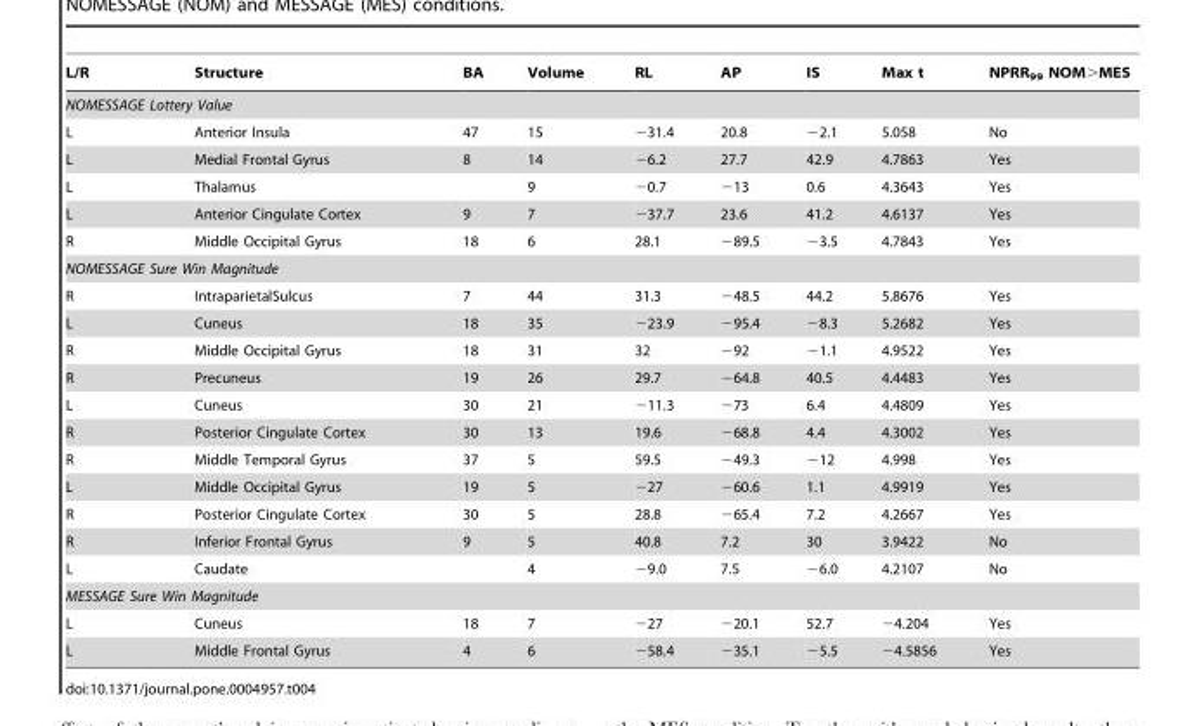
<table><thead><tr><td>L/R</td><td>Structure</td><td>BA</td><td>Volume</td><td>RL</td><td>AP</td><td>IS</td><td>Max t</td><td>NPRR<sub>99</sub> NOM&gt;MES</td></tr></thead><tbody><tr><td colspan="9">NOMESSAGE Lottery Value</td></tr><tr><td>L</td><td>Anterior Insula</td><td>47</td><td>15</td><td>−31.4</td><td>20.8</td><td>−2.1</td><td>5.058</td><td>No</td></tr><tr><td>L</td><td>Medial Frontal Gyrus</td><td>8</td><td>14</td><td>−6.2</td><td>27.7</td><td>42.9</td><td>4.7863</td><td>Yes</td></tr><tr><td>L</td><td>Thalamus</td><td></td><td>9</td><td>−0.7</td><td>−13</td><td>0.6</td><td>4.3643</td><td>Yes</td></tr><tr><td>L</td><td>Anterior Cingulate Cortex</td><td>9</td><td>7</td><td>−37.7</td><td>23.6</td><td>41.2</td><td>4.6137</td><td>Yes</td></tr><tr><td>R</td><td>Middle Occipital Gyrus</td><td>18</td><td>6</td><td>28.1</td><td>−89.5</td><td>−3.5</td><td>4.7843</td><td>Yes</td></tr><tr><td colspan="9">NOMESSAGE Sure Win Magnitude</td></tr><tr><td>R</td><td>IntraparietalSulcus</td><td>7</td><td>44</td><td>31.3</td><td>−48.5</td><td>44.2</td><td>5.8676</td><td>Yes</td></tr><tr><td>L</td><td>Cuneus</td><td>18</td><td>35</td><td>−23.9</td><td>−95.4</td><td>−8.3</td><td>5.2682</td><td>Yes</td></tr><tr><td>R</td><td>Middle Occipital Gyrus</td><td>18</td><td>31</td><td>32</td><td>−92</td><td>−1.1</td><td>4.9522</td><td>Yes</td></tr><tr><td>R</td><td>Precuneus</td><td>19</td><td>26</td><td>29.7</td><td>−64.8</td><td>40.5</td><td>4.4483</td><td>Yes</td></tr><tr><td>L</td><td>Cuneus</td><td>30</td><td>21</td><td>−11.3</td><td>−73</td><td>6.4</td><td>4.4809</td><td>Yes</td></tr><tr><td>R</td><td>Posterior Cingulate Cortex</td><td>30</td><td>13</td><td>19.6</td><td>−68.8</td><td>4.4</td><td>4.3002</td><td>Yes</td></tr><tr><td>R</td><td>Middle Temporal Gyrus</td><td>37</td><td>5</td><td>59.5</td><td>−49.3</td><td>−12</td><td>4.998</td><td>Yes</td></tr><tr><td>L</td><td>Middle Occipital Gyrus</td><td>19</td><td>5</td><td>−27</td><td>−60.6</td><td>1.1</td><td>4.9919</td><td>Yes</td></tr><tr><td>R</td><td>Posterior Cingulate Cortex</td><td>30</td><td>5</td><td>28.8</td><td>−65.4</td><td>7.2</td><td>4.2667</td><td>Yes</td></tr><tr><td>R</td><td>Inferior Frontal Gyrus</td><td>9</td><td>5</td><td>40.8</td><td>7.2</td><td>30</td><td>3.9422</td><td>No</td></tr><tr><td>L</td><td>Caudate</td><td></td><td>4</td><td>−9.0</td><td>7.5</td><td>−6.0</td><td>4.2107</td><td>No</td></tr><tr><td colspan="9">MESSAGE Sure Win Magnitude</td></tr><tr><td>L</td><td>Cuneus</td><td>18</td><td>7</td><td>−27</td><td>−20.1</td><td>52.7</td><td>−4.204</td><td>Yes</td></tr><tr><td>L</td><td>Middle Frontal Gyrus</td><td>4</td><td>6</td><td>−58.4</td><td>−35.1</td><td>−5.5</td><td>−4.5856</td><td>Yes</td></tr></tbody></table>